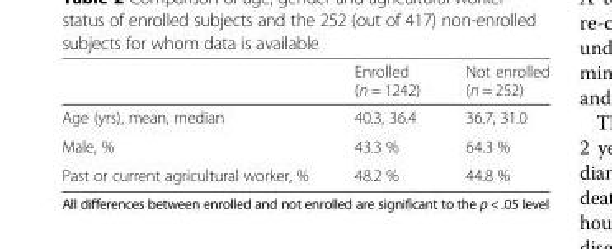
<table><thead><tr><td></td><td>Enrolled (n = 1242)</td><td>Not enrolled (n = 252)</td></tr></thead><tbody><tr><td>Age (yrs), mean, median</td><td>40.3, 36.4</td><td>36.7, 31.0</td></tr><tr><td>Male, %</td><td>43.3 %</td><td>64.3 %</td></tr><tr><td>Past or current agricultural worker, %</td><td>48.2 %</td><td>44.8 %</td></tr></tbody></table>